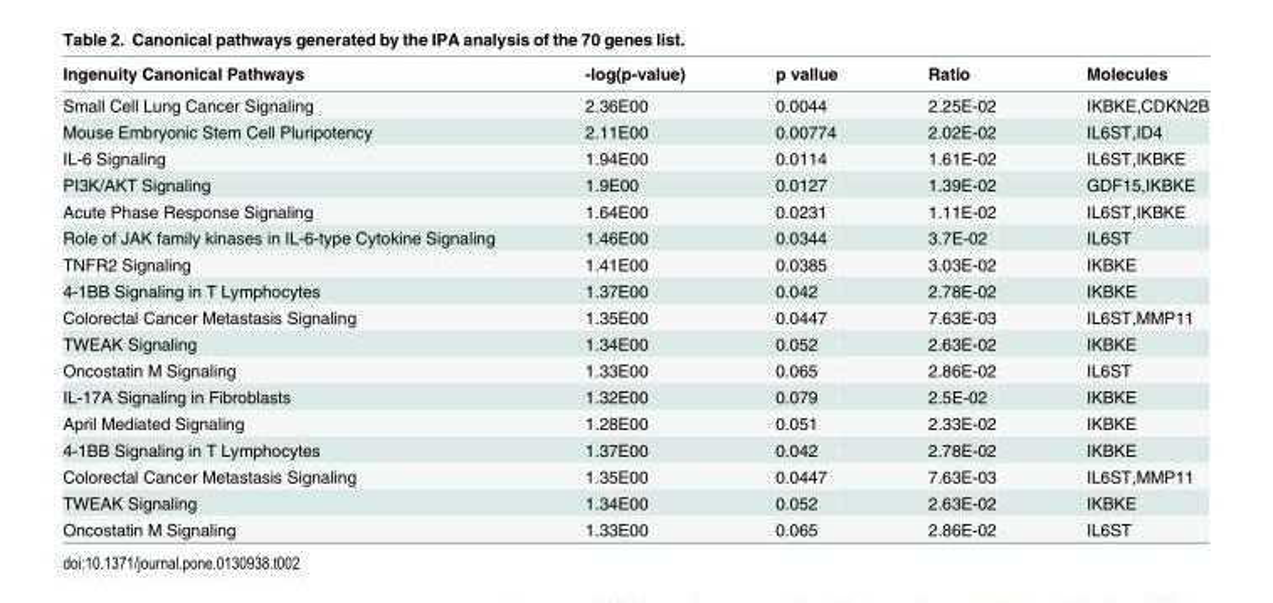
<table><thead><tr><td>Ingenuity Canonical Pathways</td><td>-log(p-value)</td><td>p vallue</td><td>Ratio</td><td>Molecules</td></tr></thead><tbody><tr><td>Small Cell Lung Cancer Signaling</td><td>2.36E00</td><td>0.0044</td><td>2.25E-02</td><td>IKBKE,CDKN2B</td></tr><tr><td>Mouse Embryonic Stem Cell Pluripotency</td><td>2.11E00</td><td>0.00774</td><td>2.02E-02</td><td>IL6ST,ID4</td></tr><tr><td>IL-6 Signaling</td><td>1.94E00</td><td>0.0114</td><td>1.61E-02</td><td>IL6ST,IKBKE</td></tr><tr><td>PI3K/AKT Signaling</td><td>1.9E00</td><td>0.0127</td><td>1.39E-02</td><td>GDF15,IKBKE</td></tr><tr><td>Acute Phase Response Signaling</td><td>1.64E00</td><td>0.0231</td><td>1.11E-02</td><td>IL6ST,IKBKE</td></tr><tr><td>Role of JAK family kinases in IL-6-type Cytokine Signaling</td><td>1.46E00</td><td>0.0344</td><td>3.7E-02</td><td>IL6ST</td></tr><tr><td>TNFR2 Signaling</td><td>1.41E00</td><td>0.0385</td><td>3.03E-02</td><td>IKBKE</td></tr><tr><td>4-1BB Signaling in T Lymphocytes</td><td>1.37E00</td><td>0.042</td><td>2.78E-02</td><td>IKBKE</td></tr><tr><td>Colorectal Cancer Metastasis Signaling</td><td>1.35E00</td><td>0.0447</td><td>7.63E-03</td><td>IL6ST,MMP11</td></tr><tr><td>TWEAK Signaling</td><td>1.34E00</td><td>0.052</td><td>2.63E-02</td><td>IKBKE</td></tr><tr><td>Oncostatin M Signaling</td><td>1.33E00</td><td>0.065</td><td>2.86E-02</td><td>IL6ST</td></tr><tr><td>IL-17A Signaling in Fibroblasts</td><td>1.32E00</td><td>0.079</td><td>2.5E-02</td><td>IKBKE</td></tr><tr><td>April Mediated Signaling</td><td>1.28E00</td><td>0.051</td><td>2.33E-02</td><td>IKBKE</td></tr><tr><td>4-1BB Signaling in T Lymphocytes</td><td>1.37E00</td><td>0.042</td><td>2.78E-02</td><td>IKBKE</td></tr><tr><td>Colorectal Cancer Metastasis Signaling</td><td>1.35E00</td><td>0.0447</td><td>7.63E-03</td><td>IL6ST,MMP11</td></tr><tr><td>TWEAK Signaling</td><td>1.34E00</td><td>0.052</td><td>2.63E-02</td><td>IKBKE</td></tr><tr><td>Oncostatin M Signaling</td><td>1.33E00</td><td>0.065</td><td>2.86E-02</td><td>IL6ST</td></tr></tbody></table>